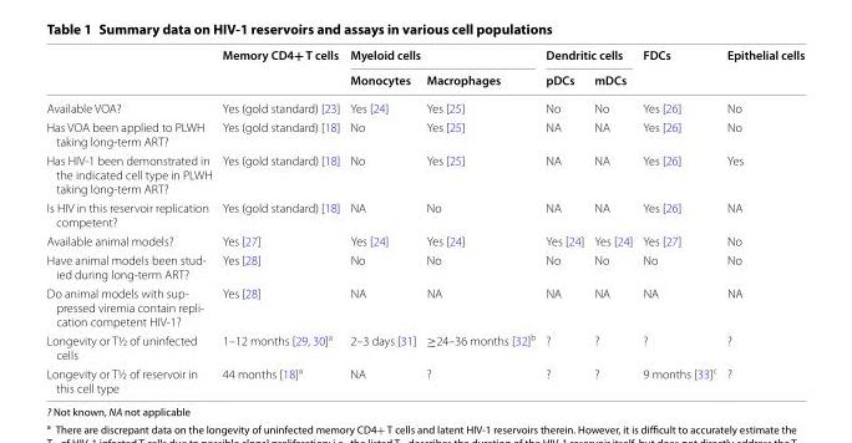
<table><thead><tr><td rowspan="2"></td><td rowspan="2">Memory CD4+ T cells</td><td colspan="2">Myeloid cells</td><td colspan="2">Dendritic cells</td><td rowspan="2">FDCs</td><td rowspan="2">Epithelial cells</td></tr><tr><td>Monocytes</td><td>Macrophages</td><td>pDCs</td><td>mDCs</td></tr></thead><tbody><tr><td>Available VOA?</td><td>Yes (gold standard) [23]</td><td>Yes [24]</td><td>Yes [25]</td><td>No</td><td>No</td><td>Yes [26]</td><td>No</td></tr><tr><td>Has VOA been applied to PLWH taking long-term ART?</td><td>Yes (gold standard) [18]</td><td>No</td><td>Yes [25]</td><td>NA</td><td>NA</td><td>Yes [26]</td><td>No</td></tr><tr><td>Has HIV-1 been demonstrated in the indicated cell type in PLWH taking long-term ART?</td><td>Yes (gold standard) [18]</td><td>No</td><td>Yes [25]</td><td>NA</td><td>NA</td><td>Yes [26]</td><td>Yes</td></tr><tr><td>Is HIV in this reservoir replication competent?</td><td>Yes (gold standard) [18]</td><td>NA</td><td>No</td><td>NA</td><td>NA</td><td>Yes [26]</td><td>NA</td></tr><tr><td>Available animal models?</td><td>Yes [27]</td><td>Yes [24]</td><td>Yes [24]</td><td>Yes [24]</td><td>Yes [24]</td><td>Yes [27]</td><td>No</td></tr><tr><td>Have animal models been stud- ied during long-term ART?</td><td>Yes [28]</td><td>No</td><td>No</td><td>No</td><td>No</td><td>No</td><td>No</td></tr><tr><td>Do animal models with sup- pressed viremia contain repli- cation competent HIV-1?</td><td>Yes [28]</td><td>NA</td><td>NA</td><td>NA</td><td>NA</td><td>NA</td><td>NA</td></tr><tr><td>Longevity or T½ of uninfected cells</td><td>1–12 months [29, 30]<sup>a</sup></td><td>2–3 days [31]</td><td>≥24–36 months [32]<sup>b</sup></td><td>?</td><td>?</td><td>?</td><td>?</td></tr><tr><td>Longevity or T½ of reservoir in this cell type</td><td>44 months [18]<sup>a</sup></td><td>NA</td><td>?</td><td>?</td><td>?</td><td>9 months [33]<sup>c</sup></td><td>?</td></tr></tbody></table>